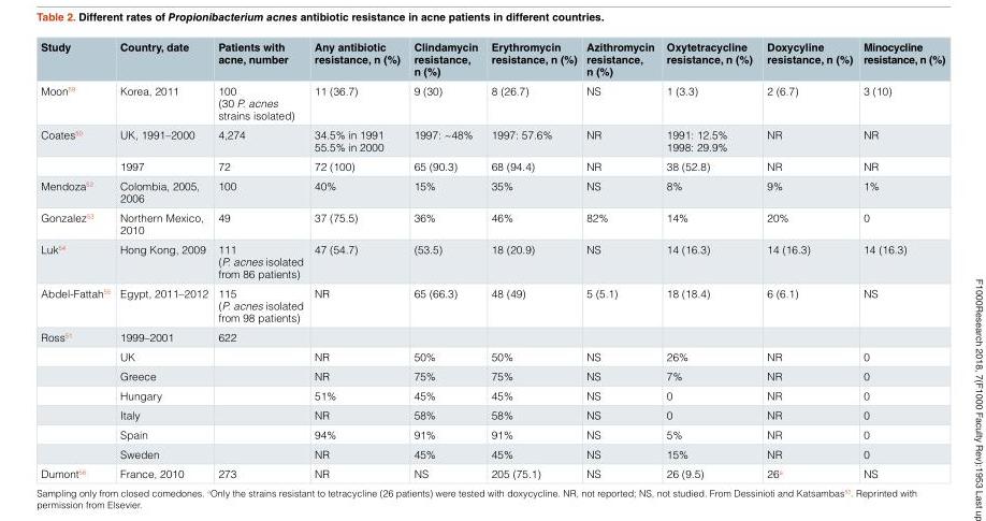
<table><thead><tr><td>Study</td><td>Country, date</td><td>Patients with acne, number</td><td>Any antibiotic resistance, n (%)</td><td>Clindamycin resistance, n (%)</td><td>Erythromycin resistance, n (%)</td><td>Azithromycin resistance, n (%)</td><td>Oxytetracycline resistance, n (%)</td><td>Doxycyline resistance, n (%)</td><td>Minocycline resistance, n (%)</td></tr></thead><tbody><tr><td>Moon<sup>59</sup></td><td>Korea, 2011</td><td>100 (30 P. acnes strains isolated)</td><td>11 (36.7)</td><td>9 (30)</td><td>8 (26.7)</td><td>NS</td><td>1 (3.3)</td><td>2 (6.7)</td><td>3 (10)</td></tr><tr><td rowspan="2">Coates<sup>50</sup></td><td>UK, 1991–2000</td><td>4,274</td><td>34.5% in 1991 55.5% in 2000</td><td>1997: ~48%</td><td>1997: 57.6%</td><td>NR</td><td>1991: 12.5% 1998: 29.9%</td><td>NR</td><td>NR</td></tr><tr><td>1997</td><td>72</td><td>72 (100)</td><td>65 (90.3)</td><td>68 (94.4)</td><td>NR</td><td>38 (52.8)</td><td>NR</td><td>NR</td></tr><tr><td>Mendoza<sup>52</sup></td><td>Colombia, 2005, 2006</td><td>100</td><td>40%</td><td>15%</td><td>35%</td><td>NS</td><td>8%</td><td>9%</td><td>1%</td></tr><tr><td>Gonzalez<sup>53</sup></td><td>Northern Mexico, 2010</td><td>49</td><td>37 (75.5)</td><td>36%</td><td>46%</td><td>82%</td><td>14%</td><td>20%</td><td>0</td></tr><tr><td>Luk<sup>54</sup></td><td>Hong Kong, 2009</td><td>111 (P. acnes isolated from 86 patients)</td><td>47 (54.7)</td><td>(53.5)</td><td>18 (20.9)</td><td>NS</td><td>14 (16.3)</td><td>14 (16.3)</td><td>14 (16.3)</td></tr><tr><td>Abdel-Fattah<sup>55</sup></td><td>Egypt, 2011–2012</td><td>115 (P. acnes isolated from 98 patients)</td><td>NR</td><td>65 (66.3)</td><td>48 (49)</td><td>5 (5.1)</td><td>18 (18.4)</td><td>6 (6.1)</td><td>NS</td></tr><tr><td rowspan="7">Ross<sup>51</sup></td><td>1999–2001</td><td>622</td><td></td><td></td><td></td><td></td><td></td><td></td><td></td></tr><tr><td>UK</td><td></td><td>NR</td><td>50%</td><td>50%</td><td>NS</td><td>26%</td><td>NR</td><td>0</td></tr><tr><td>Greece</td><td></td><td>NR</td><td>75%</td><td>75%</td><td>NS</td><td>7%</td><td>NR</td><td>0</td></tr><tr><td>Hungary</td><td></td><td>51%</td><td>45%</td><td>45%</td><td>NS</td><td>0</td><td>NR</td><td>0</td></tr><tr><td>Italy</td><td></td><td>NR</td><td>58%</td><td>58%</td><td>NS</td><td>0</td><td>NR</td><td>0</td></tr><tr><td>Spain</td><td></td><td>94%</td><td>91%</td><td>91%</td><td>NS</td><td>5%</td><td>NR</td><td>0</td></tr><tr><td>Sweden</td><td></td><td>NR</td><td>45%</td><td>45%</td><td>NS</td><td>15%</td><td>NR</td><td>0</td></tr><tr><td>Dumont<sup>56</sup></td><td>France, 2010</td><td>273</td><td>NR</td><td>NS</td><td>205 (75.1)</td><td>NS</td><td>26 (9.5)</td><td>26<sup>a</sup></td><td>NS</td></tr></tbody></table>